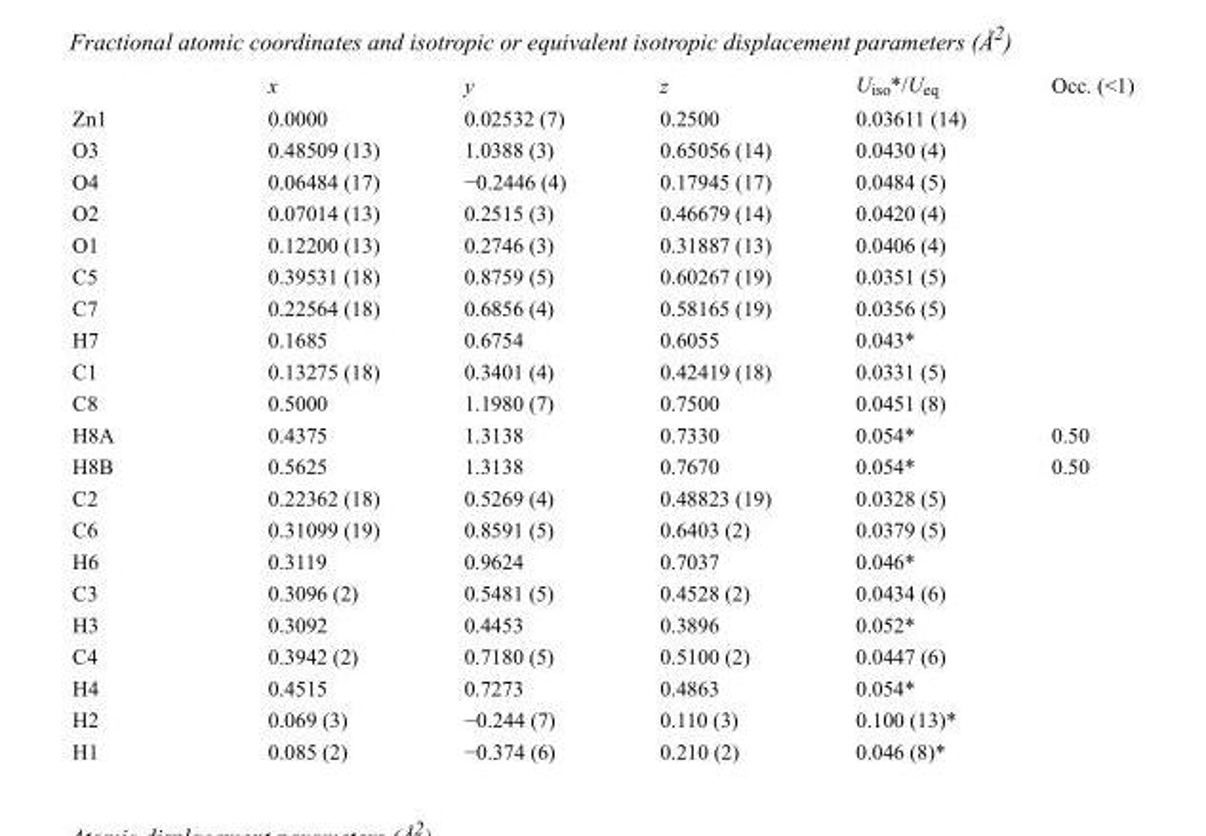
<table><thead><tr><td></td><td>x</td><td>y</td><td>z</td><td>U<sub>iso</sub>*/U<sub>eq</sub></td><td>Occ. (&lt;1)</td></tr></thead><tbody><tr><td>Zn1</td><td>0.0000</td><td>0.02532 (7)</td><td>0.2500</td><td>0.03611 (14)</td><td></td></tr><tr><td>O3</td><td>0.48509 (13)</td><td>1.0388 (3)</td><td>0.65056 (14)</td><td>0.0430 (4)</td><td></td></tr><tr><td>O4</td><td>0.06484 (17)</td><td>−0.2446 (4)</td><td>0.17945 (17)</td><td>0.0484 (5)</td><td></td></tr><tr><td>O2</td><td>0.07014 (13)</td><td>0.2515 (3)</td><td>0.46679 (14)</td><td>0.0420 (4)</td><td></td></tr><tr><td>O1</td><td>0.12200 (13)</td><td>0.2746 (3)</td><td>0.31887 (13)</td><td>0.0406 (4)</td><td></td></tr><tr><td>C5</td><td>0.39531 (18)</td><td>0.8759 (5)</td><td>0.60267 (19)</td><td>0.0351 (5)</td><td></td></tr><tr><td>C7</td><td>0.22564 (18)</td><td>0.6856 (4)</td><td>0.58165 (19)</td><td>0.0356 (5)</td><td></td></tr><tr><td>H7</td><td>0.1685</td><td>0.6754</td><td>0.6055</td><td>0.043*</td><td></td></tr><tr><td>C1</td><td>0.13275 (18)</td><td>0.3401 (4)</td><td>0.42419 (18)</td><td>0.0331 (5)</td><td></td></tr><tr><td>C8</td><td>0.5000</td><td>1.1980 (7)</td><td>0.7500</td><td>0.0451 (8)</td><td></td></tr><tr><td>H8A</td><td>0.4375</td><td>1.3138</td><td>0.7330</td><td>0.054*</td><td>0.50</td></tr><tr><td>H8B</td><td>0.5625</td><td>1.3138</td><td>0.7670</td><td>0.054*</td><td>0.50</td></tr><tr><td>C2</td><td>0.22362 (18)</td><td>0.5269 (4)</td><td>0.48823 (19)</td><td>0.0328 (5)</td><td></td></tr><tr><td>C6</td><td>0.31099 (19)</td><td>0.8591 (5)</td><td>0.6403 (2)</td><td>0.0379 (5)</td><td></td></tr><tr><td>H6</td><td>0.3119</td><td>0.9624</td><td>0.7037</td><td>0.046*</td><td></td></tr><tr><td>C3</td><td>0.3096 (2)</td><td>0.5481 (5)</td><td>0.4528 (2)</td><td>0.0434 (6)</td><td></td></tr><tr><td>H3</td><td>0.3092</td><td>0.4453</td><td>0.3896</td><td>0.052*</td><td></td></tr><tr><td>C4</td><td>0.3942 (2)</td><td>0.7180 (5)</td><td>0.5100 (2)</td><td>0.0447 (6)</td><td></td></tr><tr><td>H4</td><td>0.4515</td><td>0.7273</td><td>0.4863</td><td>0.054*</td><td></td></tr><tr><td>H2</td><td>0.069 (3)</td><td>−0.244 (7)</td><td>0.110 (3)</td><td>0.100 (13)*</td><td></td></tr><tr><td>H1</td><td>0.085 (2)</td><td>−0.374 (6)</td><td>0.210 (2)</td><td>0.046 (8)*</td><td></td></tr></tbody></table>